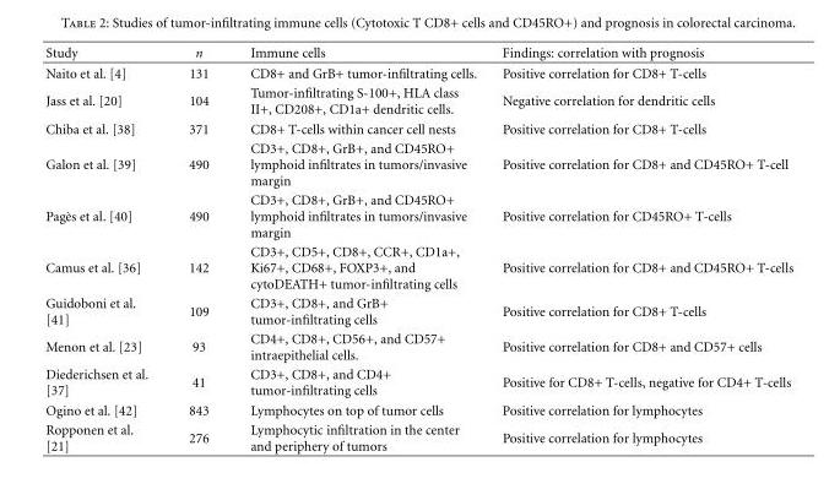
<table><thead><tr><td>Study</td><td>n</td><td>Immune cells</td><td>Findings: correlation with prognosis</td></tr></thead><tbody><tr><td>Naito et al. [4]</td><td>131</td><td>CD8+ and GrB+ tumor-infiltrating cells.</td><td>Positive correlation for CD8+ T-cells</td></tr><tr><td>Jass et al. [20]</td><td>104</td><td>Tumor-infiltrating S-100+, HLA class II+, CD208+, CD1a+ dendritic cells.</td><td>Negative correlation for dendritic cells</td></tr><tr><td>Chiba et al. [38]</td><td>371</td><td>CD8+ T-cells within cancer cell nests</td><td>Positive correlation for CD8+ T-cells</td></tr><tr><td>Galon et al. [39]</td><td>490</td><td>CD3+, CD8+, GrB+, and CD45RO+ lymphoid infiltrates in tumors/invasive margin</td><td>Positive correlation for CD8+ and CD45RO+ T-cell</td></tr><tr><td>Pag`es et al. [40]</td><td>490</td><td>CD3+, CD8+, GrB+, and CD45RO+ lymphoid infiltrates in tumors/invasive margin</td><td>Positive correlation for CD45RO+ T-cells</td></tr><tr><td>Camus et al. [36]</td><td>142</td><td>CD3+, CD5+, CD8+, CCR+, CD1a+, Ki67+, CD68+, FOXP3+, and cytoDEATH+ tumor-infiltrating cells</td><td>Positive correlation for CD8+ and CD45RO+ T-cells</td></tr><tr><td>Guidoboni et al. [41]</td><td>109</td><td>CD3+, CD8+, and GrB+ tumor-infiltrating cells</td><td>Positive correlation for CD8+ T-cells</td></tr><tr><td>Menon et al. [23]</td><td>93</td><td>CD4+, CD8+, CD56+, and CD57+ intraepithelial cells.</td><td>Positive correlation for CD8+ and CD57+ cells</td></tr><tr><td>Diederichsen et al. [37]</td><td>41</td><td>CD3+, CD8+, and CD4+ tumor-infiltrating cells</td><td>Positive for CD8+ T-cells, negative for CD4+ T-cells</td></tr><tr><td>Ogino et al. [42]</td><td>843</td><td>Lymphocytes on top of tumor cells</td><td>Positive correlation for lymphocytes</td></tr><tr><td>Ropponen et al. [21]</td><td>276</td><td>Lymphocytic infiltration in the center and periphery of tumors</td><td>Positive correlation for lymphocytes</td></tr></tbody></table>